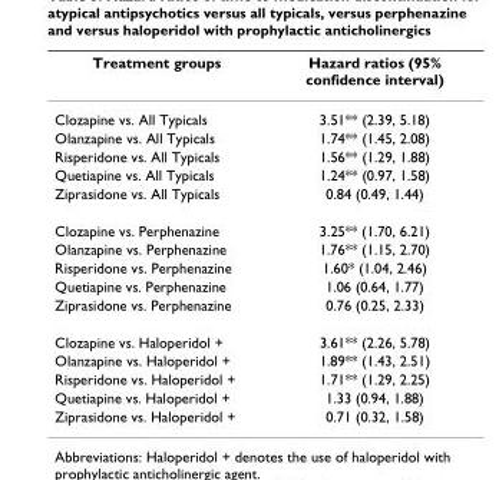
<table><thead><tr><td>Treatment groups</td><td>Hazard ratios (95% confidence interval)</td></tr></thead><tbody><tr><td>Clozapine vs. All Typicals</td><td>3.51** (2.39, 5.18)</td></tr><tr><td>Olanzapine vs. All Typicals</td><td>1.74** (1.45, 2.08)</td></tr><tr><td>Risperidone vs. All Typicals</td><td>1.56** (1.29, 1.88)</td></tr><tr><td>Quetiapine vs. All Typicals</td><td>1.24** (0.97, 1.58)</td></tr><tr><td>Ziprasidone vs. All Typicals</td><td>0.84 (0.49, 1.44)</td></tr><tr><td>Clozapine vs. Perphenazine</td><td>3.25** (1.70, 6.21)</td></tr><tr><td>Olanzapine vs. Perphenazine</td><td>1.76** (1.15, 2.70)</td></tr><tr><td>Risperidone vs. Perphenazine</td><td>1.60* (1.04, 2.46)</td></tr><tr><td>Quetiapine vs. Perphenazine</td><td>1.06 (0.64, 1.77)</td></tr><tr><td>Ziprasidone vs. Perphenazine</td><td>0.76 (0.25, 2.33)</td></tr><tr><td>Clozapine vs. Haloperidol +</td><td>3.61** (2.26, 5.78)</td></tr><tr><td>Olanzapine vs. Haloperidol +</td><td>1.89** (1.43, 2.51)</td></tr><tr><td>Risperidone vs. Haloperidol +</td><td>1.71** (1.29, 2.25)</td></tr><tr><td>Quetiapine vs. Haloperidol +</td><td>1.33 (0.94, 1.88)</td></tr><tr><td>Ziprasidone vs. Haloperidol +</td><td>0.71 (0.32, 1.58)</td></tr></tbody></table>